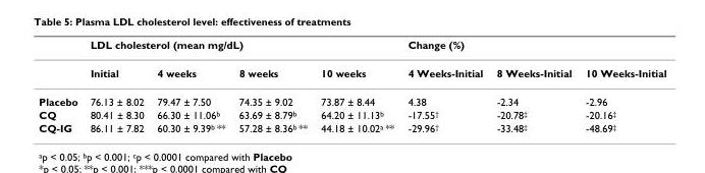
<table><thead><tr><td rowspan="2"></td><td colspan="4">LDL cholesterol (mean mg/dL)</td><td colspan="3">Change (%)</td></tr><tr><td>Initial</td><td>4 weeks</td><td>8 weeks</td><td>10 weeks</td><td>4 Weeks-Initial</td><td>8 Weeks-Initial</td><td>10 Weeks-Initial</td></tr></thead><tbody><tr><td>Placebo</td><td>76.13 ± 8.02</td><td>79.47 ± 7.50</td><td>74.35 ± 9.02</td><td>73.87 ± 8.44</td><td>4.38</td><td>-2.34</td><td>-2.96</td></tr><tr><td>CQ</td><td>80.41 ± 8.30</td><td>66.30 ± 11.06<sup>b</sup></td><td>63.69 ± 8.79<sup>b</sup></td><td>64.20 ± 11.13<sup>b</sup></td><td>-17.55<sup>†</sup></td><td>-20.78<sup>‡</sup></td><td>-20.16<sup>‡</sup></td></tr><tr><td>CQ-IG</td><td>86.11 ± 7.82</td><td>60.30 ± 9.39<sup>b</sup> **</td><td>57.28 ± 8.36<sup>b</sup> **</td><td>44.18 ± 10.02<sup>a</sup> **</td><td>-29.96<sup>†</sup></td><td>-33.48<sup>‡</sup></td><td>-48.69<sup>‡</sup></td></tr></tbody></table>